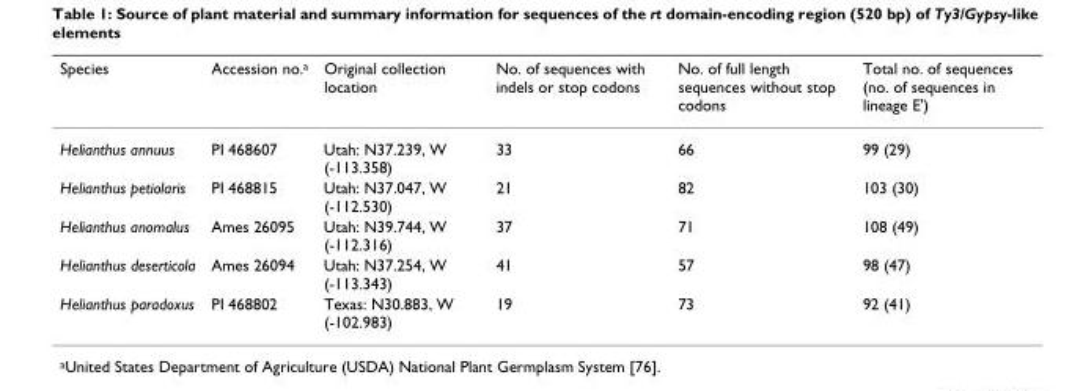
<table><thead><tr><td>Species</td><td>Accession no.<sup>a</sup></td><td>Original collection location</td><td>No. of sequences with indels or stop codons</td><td>No. of full length sequences without stop codons</td><td>Total no. of sequences (no. of sequences in lineage E&#x27;)</td></tr></thead><tbody><tr><td>Helianthus annuus</td><td>PI 468607</td><td>Utah: N37.239, W (-113.358)</td><td>33</td><td>66</td><td>99 (29)</td></tr><tr><td>Helianthus petiolaris</td><td>PI 468815</td><td>Utah: N37.047, W (-112.530)</td><td>21</td><td>82</td><td>103 (30)</td></tr><tr><td>Helianthus anomalus</td><td>Ames 26095</td><td>Utah: N39.744, W (-112.316)</td><td>37</td><td>71</td><td>108 (49)</td></tr><tr><td>Helianthus deserticola</td><td>Ames 26094</td><td>Utah: N37.254, W (-113.343)</td><td>41</td><td>57</td><td>98 (47)</td></tr><tr><td>Helianthus paradoxus</td><td>PI 468802</td><td>Texas: N30.883, W (-102.983)</td><td>19</td><td>73</td><td>92 (41)</td></tr></tbody></table>